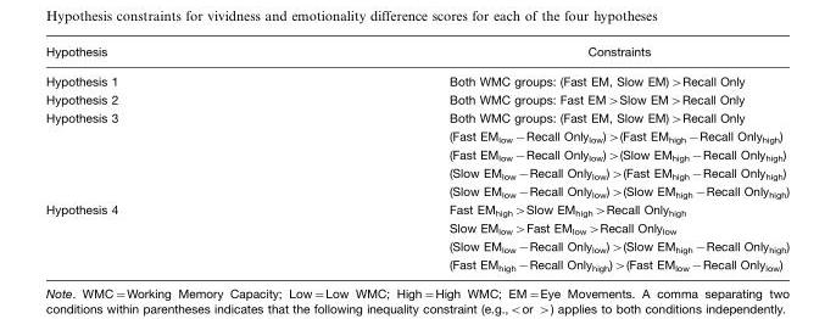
<table><thead><tr><td>Hypothesis</td><td>Constraints</td></tr></thead><tbody><tr><td>Hypothesis 1</td><td>Both WMC groups: (Fast EM, Slow EM)&gt;Recall Only</td></tr><tr><td>Hypothesis 2</td><td>Both WMC groups: Fast EM&gt;Slow EM&gt;Recall Only</td></tr><tr><td rowspan="5">Hypothesis 3</td><td>Both WMC groups: (Fast EM, Slow EM)&gt;Recall Only</td></tr><tr><td>(Fast EM<sub>low</sub>−Recall Only<sub>low</sub>)&gt;(Fast EM<sub>high</sub>−Recall Only<sub>high</sub>)</td></tr><tr><td>(Fast EM<sub>low</sub>−Recall Only<sub>low</sub>)&gt;(Slow EM<sub>high</sub>−Recall Only<sub>high</sub>)</td></tr><tr><td>(Slow EM<sub>low</sub>−Recall Only<sub>low</sub>)&gt;(Fast EM<sub>high</sub>−Recall Only<sub>high</sub>)</td></tr><tr><td>(Slow EM<sub>low</sub>−Recall Only<sub>low</sub>)&gt;(Slow EM<sub>high</sub>−Recall Only<sub>high</sub>)</td></tr><tr><td rowspan="4">Hypothesis 4</td><td>Fast EM<sub>high</sub>&gt;Slow EM<sub>high</sub>&gt;Recall Only<sub>high</sub></td></tr><tr><td>Slow EM<sub>low</sub>&gt;Fast EM<sub>low</sub>&gt;Recall Only<sub>low</sub></td></tr><tr><td>(Slow EM<sub>low</sub>−Recall Only<sub>low</sub>)&gt;(Slow EM<sub>high</sub>−Recall Only<sub>high</sub>)</td></tr><tr><td>(Fast EM<sub>high</sub>−Recall Only<sub>high</sub>)&gt;(Fast EM<sub>low</sub>−Recall Only<sub>low</sub>)</td></tr></tbody></table>